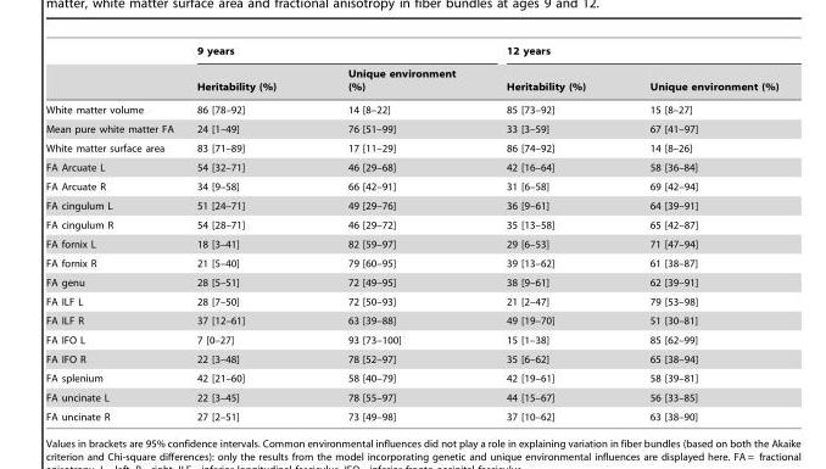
<table><thead><tr><td rowspan="2"></td><td colspan="2">9 years</td><td colspan="2">12 years</td></tr><tr><td>Heritability (%)</td><td>Unique environment (%)</td><td>Heritability (%)</td><td>Unique environment (%)</td></tr></thead><tbody><tr><td>White matter volume</td><td>86 [78–92]</td><td>14 [8–22]</td><td>85 [73–92]</td><td>15 [8–27]</td></tr><tr><td>Mean pure white matter FA</td><td>24 [1–49]</td><td>76 [51–99]</td><td>33 [3–59]</td><td>67 [41–97]</td></tr><tr><td>White matter surface area</td><td>83 [71–89]</td><td>17 [11–29]</td><td>86 [74–92]</td><td>14 [8–26]</td></tr><tr><td>FA Arcuate L</td><td>54 [32–71]</td><td>46 [29–68]</td><td>42 [16–64]</td><td>58 [36–84]</td></tr><tr><td>FA Arcuate R</td><td>34 [9–58]</td><td>66 [42–91]</td><td>31 [6–58]</td><td>69 [42–94]</td></tr><tr><td>FA cingulum L</td><td>51 [24–71]</td><td>49 [29–76]</td><td>36 [9–61]</td><td>64 [39–91]</td></tr><tr><td>FA cingulum R</td><td>54 [28–71]</td><td>46 [29–72]</td><td>35 [13–58]</td><td>65 [42–87]</td></tr><tr><td>FA fornix L</td><td>18 [3–41]</td><td>82 [59–97]</td><td>29 [6–53]</td><td>71 [47–94]</td></tr><tr><td>FA fornix R</td><td>21 [5–40]</td><td>79 [60–95]</td><td>39 [13–62]</td><td>61 [38–87]</td></tr><tr><td>FA genu</td><td>28 [5–51]</td><td>72 [49–95]</td><td>38 [9–61]</td><td>62 [39–91]</td></tr><tr><td>FA ILF L</td><td>28 [7–50]</td><td>72 [50–93]</td><td>21 [2–47]</td><td>79 [53–98]</td></tr><tr><td>FA ILF R</td><td>37 [12–61]</td><td>63 [39–88]</td><td>49 [19–70]</td><td>51 [30–81]</td></tr><tr><td>FA IFO L</td><td>7 [0–27]</td><td>93 [73–100]</td><td>15 [1–38]</td><td>85 [62–99]</td></tr><tr><td>FA IFO R</td><td>22 [3–48]</td><td>78 [52–97]</td><td>35 [6–62]</td><td>65 [38–94]</td></tr><tr><td>FA splenium</td><td>42 [21–60]</td><td>58 [40–79]</td><td>42 [19–61]</td><td>58 [39–81]</td></tr><tr><td>FA uncinate L</td><td>22 [3–45]</td><td>78 [55–97]</td><td>44 [15–67]</td><td>56 [33–85]</td></tr><tr><td>FA uncinate R</td><td>27 [2–51]</td><td>73 [49–98]</td><td>37 [10–62]</td><td>63 [38–90]</td></tr></tbody></table>